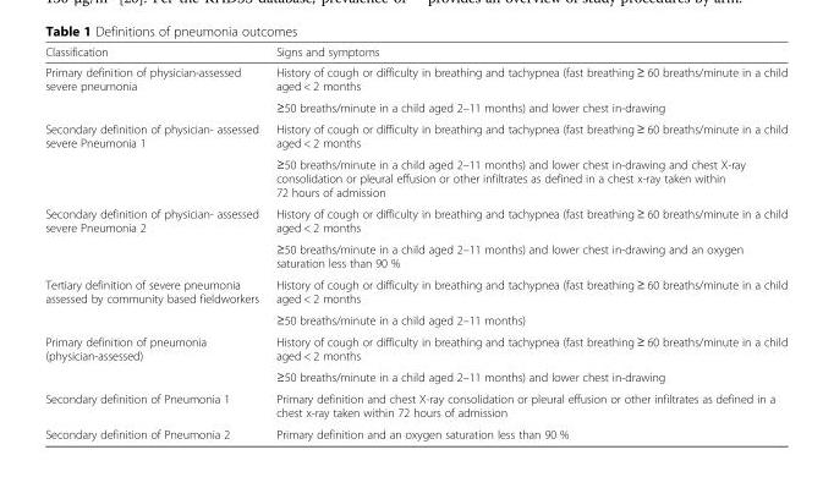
<table><thead><tr><td>Classification</td><td>Signs and symptoms</td></tr></thead><tbody><tr><td rowspan="2">Primary definition of physician-assessed severe pneumonia</td><td>History of cough or difficulty in breathing and tachypnea (fast breathing ≥ 60 breaths/minute in a child aged &lt; 2 months</td></tr><tr><td>≥50 breaths/minute in a child aged 2–11 months) and lower chest in-drawing</td></tr><tr><td rowspan="2">Secondary definition of physician- assessed severe Pneumonia 1</td><td>History of cough or difficulty in breathing and tachypnea (fast breathing ≥ 60 breaths/minute in a child aged &lt; 2 months</td></tr><tr><td>≥50 breaths/minute in a child aged 2–11 months) and lower chest in-drawing and chest X-ray consolidation or pleural effusion or other infiltrates as defined in a chest x-ray taken within 72 hours of admission</td></tr><tr><td rowspan="2">Secondary definition of physician- assessed severe Pneumonia 2</td><td>History of cough or difficulty in breathing and tachypnea (fast breathing ≥ 60 breaths/minute in a child aged &lt; 2 months</td></tr><tr><td>≥50 breaths/minute in a child aged 2–11 months) and lower chest in-drawing and an oxygen saturation less than 90 %</td></tr><tr><td rowspan="2">Tertiary definition of severe pneumonia assessed by community based fieldworkers</td><td>History of cough or difficulty in breathing and tachypnea (fast breathing ≥ 60 breaths/minute in a child aged &lt; 2 months</td></tr><tr><td>≥50 breaths/minute in a child aged 2–11 months)</td></tr><tr><td rowspan="2">Primary definition of pneumonia (physician-assessed)</td><td>History of cough or difficulty in breathing and tachypnea (fast breathing ≥ 60 breaths/minute in a child aged &lt; 2 months</td></tr><tr><td>≥50 breaths/minute in a child aged 2–11 months) and lower chest in-drawing</td></tr><tr><td>Secondary definition of Pneumonia 1</td><td>Primary definition and chest X-ray consolidation or pleural effusion or other infiltrates as defined in a chest x-ray taken within 72 hours of admission</td></tr><tr><td>Secondary definition of Pneumonia 2</td><td>Primary definition and an oxygen saturation less than 90 %</td></tr></tbody></table>